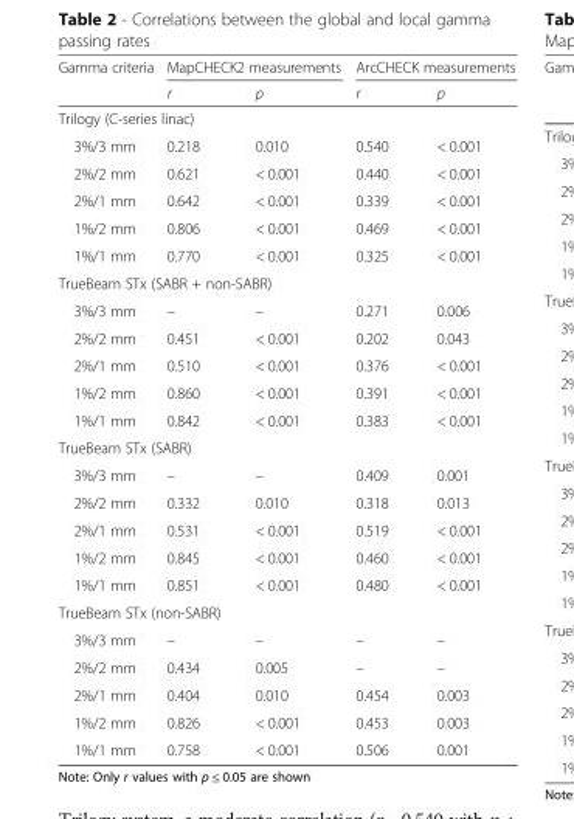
<table><thead><tr><td rowspan="2">Gamma criteria</td><td colspan="2">MapCHECK2 measurements</td><td colspan="2">ArcCHECK measurements</td></tr><tr><td>r</td><td>p</td><td>r</td><td>p</td></tr></thead><tbody><tr><td colspan="5">Trilogy (C-series linac)</td></tr><tr><td>3%/3 mm</td><td>0.218</td><td>0.010</td><td>0.540</td><td>&lt; 0.001</td></tr><tr><td>2%/2 mm</td><td>0.621</td><td>&lt; 0.001</td><td>0.440</td><td>&lt; 0.001</td></tr><tr><td>2%/1 mm</td><td>0.642</td><td>&lt; 0.001</td><td>0.339</td><td>&lt; 0.001</td></tr><tr><td>1%/2 mm</td><td>0.806</td><td>&lt; 0.001</td><td>0.469</td><td>&lt; 0.001</td></tr><tr><td>1%/1 mm</td><td>0.770</td><td>&lt; 0.001</td><td>0.325</td><td>&lt; 0.001</td></tr><tr><td colspan="5">TrueBeam STx (SABR + non-SABR)</td></tr><tr><td>3%/3 mm</td><td>–</td><td>–</td><td>0.271</td><td>0.006</td></tr><tr><td>2%/2 mm</td><td>0.451</td><td>&lt; 0.001</td><td>0.202</td><td>0.043</td></tr><tr><td>2%/1 mm</td><td>0.510</td><td>&lt; 0.001</td><td>0.376</td><td>&lt; 0.001</td></tr><tr><td>1%/2 mm</td><td>0.860</td><td>&lt; 0.001</td><td>0.391</td><td>&lt; 0.001</td></tr><tr><td>1%/1 mm</td><td>0.842</td><td>&lt; 0.001</td><td>0.383</td><td>&lt; 0.001</td></tr><tr><td colspan="5">TrueBeam STx (SABR)</td></tr><tr><td>3%/3 mm</td><td>–</td><td>–</td><td>0.409</td><td>0.001</td></tr><tr><td>2%/2 mm</td><td>0.332</td><td>0.010</td><td>0.318</td><td>0.013</td></tr><tr><td>2%/1 mm</td><td>0.531</td><td>&lt; 0.001</td><td>0.519</td><td>&lt; 0.001</td></tr><tr><td>1%/2 mm</td><td>0.845</td><td>&lt; 0.001</td><td>0.460</td><td>&lt; 0.001</td></tr><tr><td>1%/1 mm</td><td>0.851</td><td>&lt; 0.001</td><td>0.480</td><td>&lt; 0.001</td></tr><tr><td colspan="5">TrueBeam STx (non-SABR)</td></tr><tr><td>3%/3 mm</td><td>–</td><td>–</td><td>–</td><td>–</td></tr><tr><td>2%/2 mm</td><td>0.434</td><td>0.005</td><td>–</td><td>–</td></tr><tr><td>2%/1 mm</td><td>0.404</td><td>0.010</td><td>0.454</td><td>0.003</td></tr><tr><td>1%/2 mm</td><td>0.826</td><td>&lt; 0.001</td><td>0.453</td><td>0.003</td></tr><tr><td>1%/1 mm</td><td>0.758</td><td>&lt; 0.001</td><td>0.506</td><td>0.001</td></tr></tbody></table>